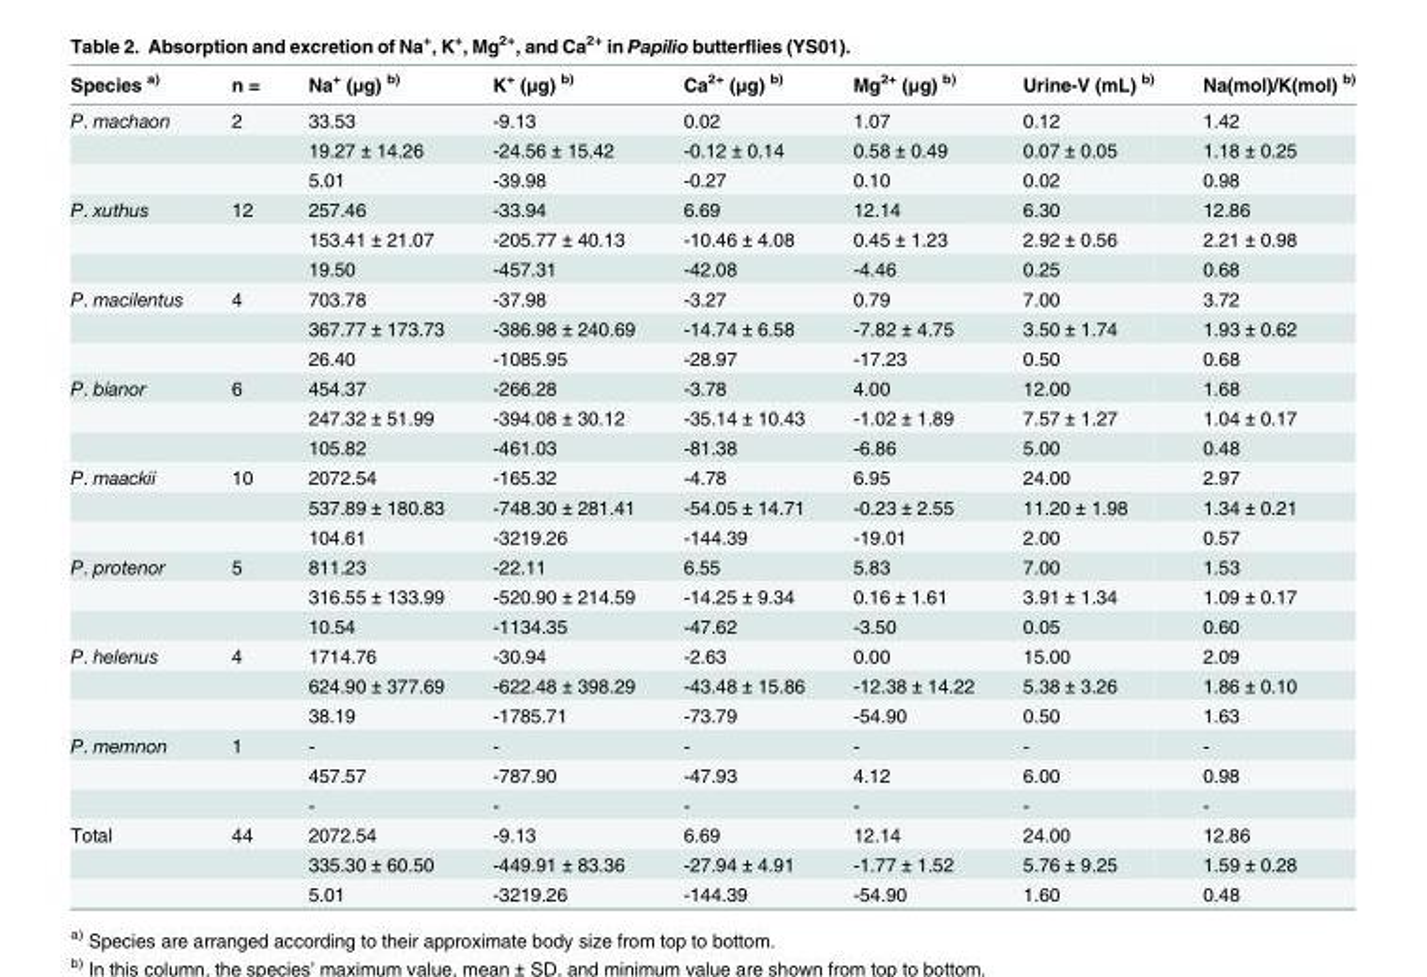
<table><thead><tr><td>Species <sup>a)</sup></td><td>n =</td><td>Na<sup>+</sup> (μg) <sup>b)</sup></td><td>K<sup>+</sup> (μg) <sup>b)</sup></td><td>Ca<sup>2+</sup> (μg) <sup>b)</sup></td><td>Mg<sup>2+</sup> (μg) <sup>b)</sup></td><td>Urine-V (mL) <sup>b)</sup></td><td>Na(mol)/K(mol) <sup>b)</sup></td></tr></thead><tbody><tr><td rowspan="3">P. machaon</td><td>2</td><td>33.53</td><td>-9.13</td><td>0.02</td><td>1.07</td><td>0.12</td><td>1.42</td></tr><tr><td></td><td>19.27 ± 14.26</td><td>-24.56 ± 15.42</td><td>-0.12 ± 0.14</td><td>0.58 ± 0.49</td><td>0.07 ± 0.05</td><td>1.18 ± 0.25</td></tr><tr><td></td><td>5.01</td><td>-39.98</td><td>-0.27</td><td>0.10</td><td>0.02</td><td>0.98</td></tr><tr><td rowspan="3">P. xuthus</td><td>12</td><td>257.46</td><td>-33.94</td><td>6.69</td><td>12.14</td><td>6.30</td><td>12.86</td></tr><tr><td></td><td>153.41 ± 21.07</td><td>-205.77 ± 40.13</td><td>-10.46 ± 4.08</td><td>0.45 ± 1.23</td><td>2.92 ± 0.56</td><td>2.21 ± 0.98</td></tr><tr><td></td><td>19.50</td><td>-457.31</td><td>-42.08</td><td>-4.46</td><td>0.25</td><td>0.68</td></tr><tr><td rowspan="3">P. macilentus</td><td>4</td><td>703.78</td><td>-37.98</td><td>-3.27</td><td>0.79</td><td>7.00</td><td>3.72</td></tr><tr><td></td><td>367.77 ± 173.73</td><td>-386.98 ± 240.69</td><td>-14.74 ± 6.58</td><td>-7.82 ± 4.75</td><td>3.50 ± 1.74</td><td>1.93 ± 0.62</td></tr><tr><td></td><td>26.40</td><td>-1085.95</td><td>-28.97</td><td>-17.23</td><td>0.50</td><td>0.68</td></tr><tr><td rowspan="3">P. bianor</td><td>6</td><td>454.37</td><td>-266.28</td><td>-3.78</td><td>4.00</td><td>12.00</td><td>1.68</td></tr><tr><td></td><td>247.32 ± 51.99</td><td>-394.08 ± 30.12</td><td>-35.14 ± 10.43</td><td>-1.02 ± 1.89</td><td>7.57 ± 1.27</td><td>1.04 ± 0.17</td></tr><tr><td></td><td>105.82</td><td>-461.03</td><td>-81.38</td><td>-6.86</td><td>5.00</td><td>0.48</td></tr><tr><td rowspan="3">P. maackii</td><td>10</td><td>2072.54</td><td>-165.32</td><td>-4.78</td><td>6.95</td><td>24.00</td><td>2.97</td></tr><tr><td></td><td>537.89 ± 180.83</td><td>-748.30 ± 281.41</td><td>-54.05 ± 14.71</td><td>-0.23 ± 2.55</td><td>11.20 ± 1.98</td><td>1.34 ± 0.21</td></tr><tr><td></td><td>104.61</td><td>-3219.26</td><td>-144.39</td><td>-19.01</td><td>2.00</td><td>0.57</td></tr><tr><td rowspan="3">P. protenor</td><td>5</td><td>811.23</td><td>-22.11</td><td>6.55</td><td>5.83</td><td>7.00</td><td>1.53</td></tr><tr><td></td><td>316.55 ± 133.99</td><td>-520.90 ± 214.59</td><td>-14.25 ± 9.34</td><td>0.16 ± 1.61</td><td>3.91 ± 1.34</td><td>1.09 ± 0.17</td></tr><tr><td></td><td>10.54</td><td>-1134.35</td><td>-47.62</td><td>-3.50</td><td>0.05</td><td>0.60</td></tr><tr><td rowspan="3">P. helenus</td><td>4</td><td>1714.76</td><td>-30.94</td><td>-2.63</td><td>0.00</td><td>15.00</td><td>2.09</td></tr><tr><td></td><td>624.90 ± 377.69</td><td>-622.48 ± 398.29</td><td>-43.48 ± 15.86</td><td>-12.38 ± 14.22</td><td>5.38 ± 3.26</td><td>1.86 ± 0.10</td></tr><tr><td></td><td>38.19</td><td>-1785.71</td><td>-73.79</td><td>-54.90</td><td>0.50</td><td>1.63</td></tr><tr><td rowspan="3">P. memnon</td><td>1</td><td>-</td><td>-</td><td>-</td><td>-</td><td>-</td><td>-</td></tr><tr><td></td><td>457.57</td><td>-787.90</td><td>-47.93</td><td>4.12</td><td>6.00</td><td>0.98</td></tr><tr><td></td><td>-</td><td>-</td><td>-</td><td>-</td><td>-</td><td>-</td></tr><tr><td rowspan="3">Total</td><td>44</td><td>2072.54</td><td>-9.13</td><td>6.69</td><td>12.14</td><td>24.00</td><td>12.86</td></tr><tr><td></td><td>335.30 ± 60.50</td><td>-449.91 ± 83.36</td><td>-27.94 ± 4.91</td><td>-1.77 ± 1.52</td><td>5.76 ± 9.25</td><td>1.59 ± 0.28</td></tr><tr><td></td><td>5.01</td><td>-3219.26</td><td>-144.39</td><td>-54.90</td><td>1.60</td><td>0.48</td></tr></tbody></table>